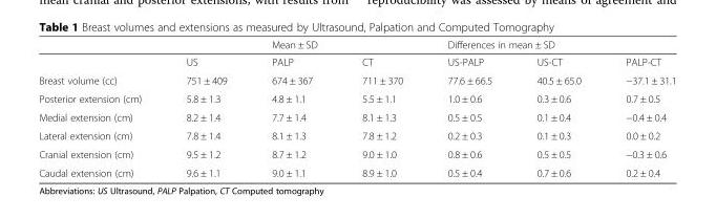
<table><thead><tr><td rowspan="2"></td><td rowspan="2">US</td><td rowspan="2">Mean ± SD PALP</td><td rowspan="2">CT</td><td colspan="3">Differences in mean ± SD</td></tr><tr><td>US-PALP</td><td>US-CT</td><td>PALP-CT</td></tr></thead><tbody><tr><td>Breast volume (cc)</td><td>751 ± 409</td><td>674 ± 367</td><td>711 ± 370</td><td>77.6 ± 66.5</td><td>40.5 ± 65.0</td><td>−37.1 ± 31.1</td></tr><tr><td>Posterior extension (cm)</td><td>5.8 ± 1.3</td><td>4.8 ± 1.1</td><td>5.5 ± 1.1</td><td>1.0 ± 0.6</td><td>0.3 ± 0.6</td><td>0.7 ± 0.5</td></tr><tr><td>Medial extension (cm)</td><td>8.2 ± 1.4</td><td>7.7 ± 1.4</td><td>8.1 ± 1.3</td><td>0.5 ± 0.5</td><td>0.1 ± 0.4</td><td>−0.4 ± 0.4</td></tr><tr><td>Lateral extension (cm)</td><td>7.8 ± 1.4</td><td>8.1 ± 1.3</td><td>7.8 ± 1.2</td><td>0.2 ± 0.3</td><td>0.1 ± 0.3</td><td>0.0 ± 0.2</td></tr><tr><td>Cranial extension (cm)</td><td>9.5 ± 1.2</td><td>8.7 ± 1.2</td><td>9.0 ± 1.0</td><td>0.8 ± 0.6</td><td>0.5 ± 0.5</td><td>−0.3 ± 0.6</td></tr><tr><td>Caudal extension (cm)</td><td>9.6 ± 1.1</td><td>9.0 ± 1.1</td><td>8.9 ± 1.0</td><td>0.5 ± 0.4</td><td>0.7 ± 0.6</td><td>0.2 ± 0.4</td></tr></tbody></table>